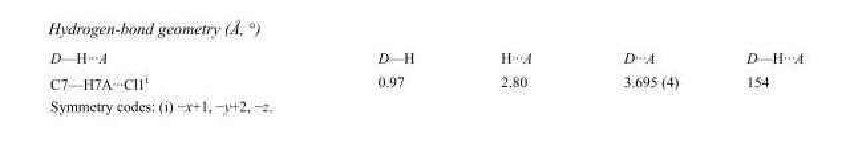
<table><tbody><tr><td>D—H···A</td><td>D—H</td><td>H···A</td><td>D···A</td><td>D—H···A</td></tr><tr><td>C7—H7A···Cl1<sup>i</sup></td><td>0.97</td><td>2.80</td><td>3.695 (4)</td><td>154</td></tr></tbody></table>